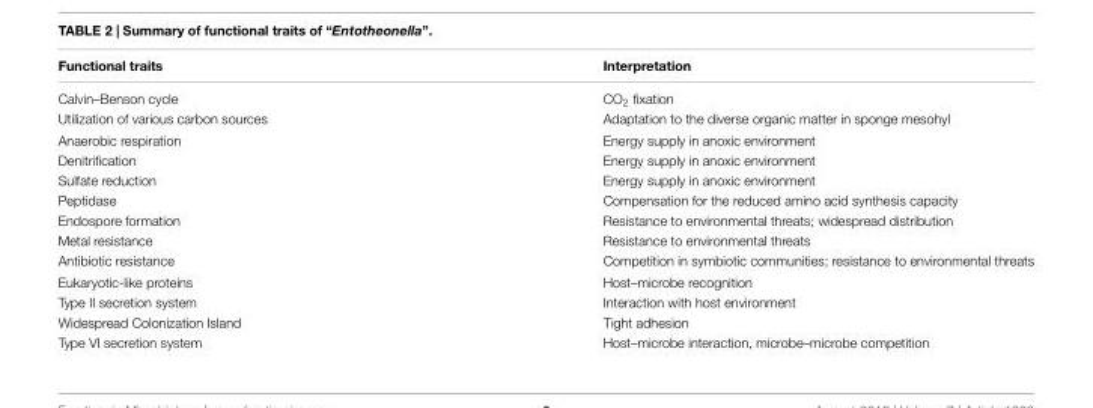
<table><thead><tr><td>Functional traits</td><td>Interpretation</td></tr></thead><tbody><tr><td>Calvin–Benson cycle</td><td>CO<sub>2</sub> fixation</td></tr><tr><td>Utilization of various carbon sources</td><td>Adaptation to the diverse organic matter in sponge mesohyl</td></tr><tr><td>Anaerobic respiration</td><td>Energy supply in anoxic environment</td></tr><tr><td>Denitrification</td><td>Energy supply in anoxic environment</td></tr><tr><td>Sulfate reduction</td><td>Energy supply in anoxic environment</td></tr><tr><td>Peptidase</td><td>Compensation for the reduced amino acid synthesis capacity</td></tr><tr><td>Endospore formation</td><td>Resistance to environmental threats; widespread distribution</td></tr><tr><td>Metal resistance</td><td>Resistance to environmental threats</td></tr><tr><td>Antibiotic resistance</td><td>Competition in symbiotic communities; resistance to environmental threats</td></tr><tr><td>Eukaryotic-like proteins</td><td>Host–microbe recognition</td></tr><tr><td>Type II secretion system</td><td>Interaction with host environment</td></tr><tr><td>Widespread Colonization Island</td><td>Tight adhesion</td></tr><tr><td>Type VI secretion system</td><td>Host–microbe interaction, microbe–microbe competition</td></tr></tbody></table>